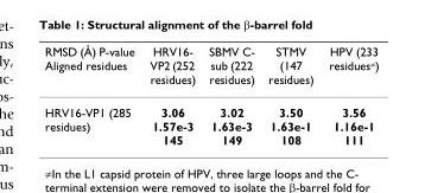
<table><thead><tr><td>RMSD (Å) P-value Aligned residues</td><td>HRV16- VP2 (252 residues)</td><td>SBMV C- sub (222 residues)</td><td>STMV (147 residues)</td><td>HPV (233 residues<sup>≠</sup>)</td></tr></thead><tbody><tr><td>HRV16-VP1 (285 residues)</td><td>3.06 1.57e-3 145</td><td>3.02 1.63e-3 149</td><td>3.50 1.63e-1 108</td><td>3.56 1.16e-1 111</td></tr></tbody></table>